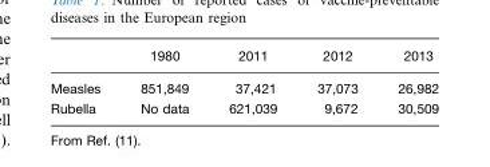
<table><thead><tr><td></td><td>1980</td><td>2011</td><td>2012</td><td>2013</td></tr></thead><tbody><tr><td>Measles</td><td>851,849</td><td>37,421</td><td>37,073</td><td>26,982</td></tr><tr><td>Rubella</td><td>No data</td><td>621,039</td><td>9,672</td><td>30,509</td></tr></tbody></table>